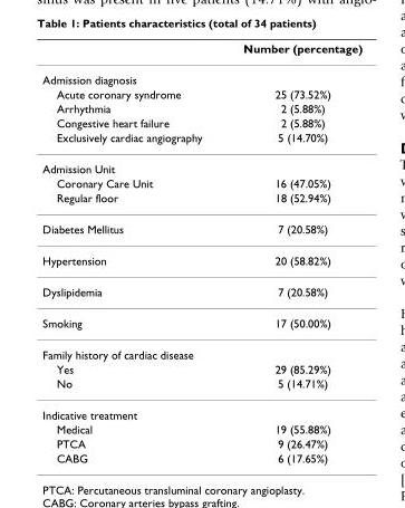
<table><thead><tr><td></td><td>Number (percentage)</td></tr></thead><tbody><tr><td colspan="2">Admission diagnosis</td></tr><tr><td>Acute coronary syndrome</td><td>25 (73.52%)</td></tr><tr><td>Arrhythmia</td><td>2 (5.88%)</td></tr><tr><td>Congestive heart failure</td><td>2 (5.88%)</td></tr><tr><td>Exclusively cardiac angiography</td><td>5 (14.70%)</td></tr><tr><td colspan="2">Admission Unit</td></tr><tr><td>Coronary Care Unit</td><td>16 (47.05%)</td></tr><tr><td>Regular floor</td><td>18 (52.94%)</td></tr><tr><td>Diabetes Mellitus</td><td>7 (20.58%)</td></tr><tr><td>Hypertension</td><td>20 (58.82%)</td></tr><tr><td>Dyslipidemia</td><td>7 (20.58%)</td></tr><tr><td>Smoking</td><td>17 (50.00%)</td></tr><tr><td colspan="2">Family history of cardiac disease</td></tr><tr><td>Yes</td><td>29 (85.29%)</td></tr><tr><td>No</td><td>5 (14.71%)</td></tr><tr><td colspan="2">Indicative treatment</td></tr><tr><td>Medical</td><td>19 (55.88%)</td></tr><tr><td>PTCA</td><td>9 (26.47%)</td></tr><tr><td>CABG</td><td>6 (17.65%)</td></tr></tbody></table>